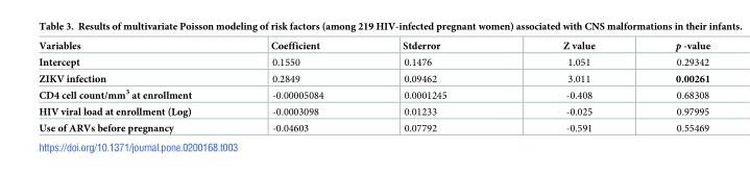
<table><thead><tr><td>Variables</td><td>Coefficient</td><td>Stderror</td><td>Z value</td><td>p -value</td></tr></thead><tbody><tr><td>Intercept</td><td>0.1550</td><td>0.1476</td><td>1.051</td><td>0.29342</td></tr><tr><td>ZIKV infection</td><td>0.2849</td><td>0.09462</td><td>3.011</td><td>0.00261</td></tr><tr><td>CD4 cell count/mm<sup>3</sup> at enrollment</td><td>-0.00005084</td><td>0.0001245</td><td>-0.408</td><td>0.68308</td></tr><tr><td>HIV viral load at enrollment (Log)</td><td>-0.0003098</td><td>0.01233</td><td>-0.025</td><td>0.97995</td></tr><tr><td>Use of ARVs before pregnancy</td><td>-0.04603</td><td>0.07792</td><td>-0.591</td><td>0.55469</td></tr></tbody></table>